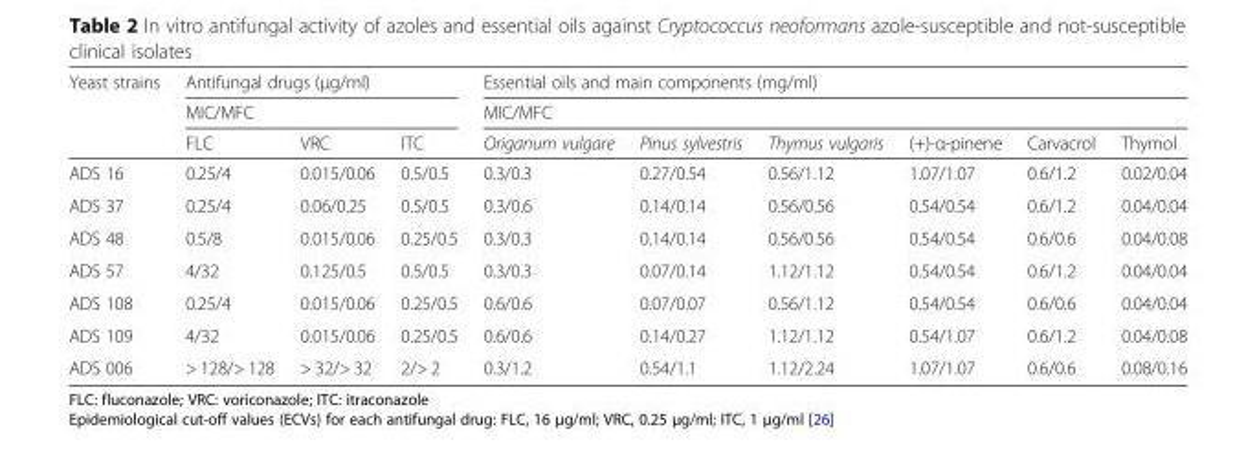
<table><thead><tr><td rowspan="3">Yeast strains</td><td rowspan="2" colspan="3">Antifungal drugs (μg/ml) MIC/MFC</td><td rowspan="2" colspan="6">Essential oils and main components (mg/ml) MIC/MFC</td></tr><tr></tr><tr><td>FLC</td><td>VRC</td><td>ITC</td><td>Origanum vulgare</td><td>Pinus sylvestris</td><td>Thymus vulgaris</td><td>(+)-α-pinene</td><td>Carvacrol</td><td>Thymol</td></tr></thead><tbody><tr><td>ADS 16</td><td>0.25/4</td><td>0.015/0.06</td><td>0.5/0.5</td><td>0.3/0.3</td><td>0.27/0.54</td><td>0.56/1.12</td><td>1.07/1.07</td><td>0.6/1.2</td><td>0.02/0.04</td></tr><tr><td>ADS 37</td><td>0.25/4</td><td>0.06/0.25</td><td>0.5/0.5</td><td>0.3/0.6</td><td>0.14/0.14</td><td>0.56/0.56</td><td>0.54/0.54</td><td>0.6/1.2</td><td>0.04/0.04</td></tr><tr><td>ADS 48</td><td>0.5/8</td><td>0.015/0.06</td><td>0.25/0.5</td><td>0.3/0.3</td><td>0.14/0.14</td><td>0.56/0.56</td><td>0.54/0.54</td><td>0.6/0.6</td><td>0.04/0.08</td></tr><tr><td>ADS 57</td><td>4/32</td><td>0.125/0.5</td><td>0.5/0.5</td><td>0.3/0.3</td><td>0.07/0.14</td><td>1.12/1.12</td><td>0.54/0.54</td><td>0.6/1.2</td><td>0.04/0.04</td></tr><tr><td>ADS 108</td><td>0.25/4</td><td>0.015/0.06</td><td>0.25/0.5</td><td>0.6/0.6</td><td>0.07/0.07</td><td>0.56/1.12</td><td>0.54/0.54</td><td>0.6/0.6</td><td>0.04/0.04</td></tr><tr><td>ADS 109</td><td>4/32</td><td>0.015/0.06</td><td>0.25/0.5</td><td>0.6/0.6</td><td>0.14/0.27</td><td>1.12/1.12</td><td>0.54/1.07</td><td>0.6/1.2</td><td>0.04/0.08</td></tr><tr><td>ADS 006</td><td>&gt; 128/&gt; 128</td><td>&gt; 32/&gt; 32</td><td>2/&gt; 2</td><td>0.3/1.2</td><td>0.54/1.1</td><td>1.12/2.24</td><td>1.07/1.07</td><td>0.6/0.6</td><td>0.08/0.16</td></tr></tbody></table>